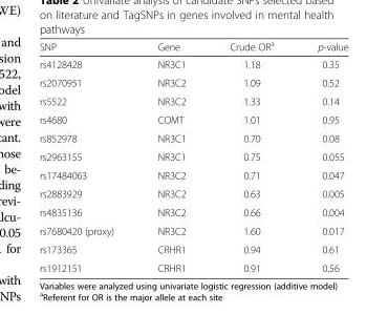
<table><thead><tr><td>SNP</td><td>Gene</td><td>Crude OR<sup>a</sup></td><td>p-value</td></tr></thead><tbody><tr><td>rs4128428</td><td>NR3C1</td><td>1.18</td><td>0.35</td></tr><tr><td>rs2070951</td><td>NR3C2</td><td>1.09</td><td>0.52</td></tr><tr><td>rs5522</td><td>NR3C2</td><td>1.33</td><td>0.14</td></tr><tr><td>rs4680</td><td>COMT</td><td>1.01</td><td>0.95</td></tr><tr><td>rs852978</td><td>NR3C1</td><td>0.70</td><td>0.08</td></tr><tr><td>rs2963155</td><td>NR3C1</td><td>0.75</td><td>0.055</td></tr><tr><td>rs17484063</td><td>NR3C2</td><td>0.71</td><td>0.047</td></tr><tr><td>rs2883929</td><td>NR3C2</td><td>0.63</td><td>0.005</td></tr><tr><td>rs4835136</td><td>NR3C2</td><td>0.66</td><td>0.004</td></tr><tr><td>rs7680420 (proxy)</td><td>NR3C2</td><td>1.60</td><td>0.017</td></tr><tr><td>rs173365</td><td>CRHR1</td><td>0.94</td><td>0.61</td></tr><tr><td>rs1912151</td><td>CRHR1</td><td>0.91</td><td>0.56</td></tr></tbody></table>